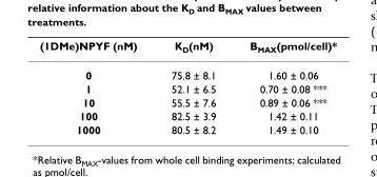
<table><thead><tr><td>(1DMe)NPYF (nM)</td><td>KD(nM)</td><td>BMAX(pmol/cell)*</td></tr></thead><tbody><tr><td>0</td><td>75.8 ± 8.1</td><td>1.60 ± 0.06</td></tr><tr><td>1</td><td>52.1 ± 6.5</td><td>0.70 ± 0.08 ***</td></tr><tr><td>10</td><td>55.5 ± 7.6</td><td>0.89 ± 0.06 ***</td></tr><tr><td>100</td><td>82.5 ± 3.9</td><td>1.42 ± 0.11</td></tr><tr><td>1000</td><td>80.5 ± 8.2</td><td>1.49 ± 0.10</td></tr></tbody></table>